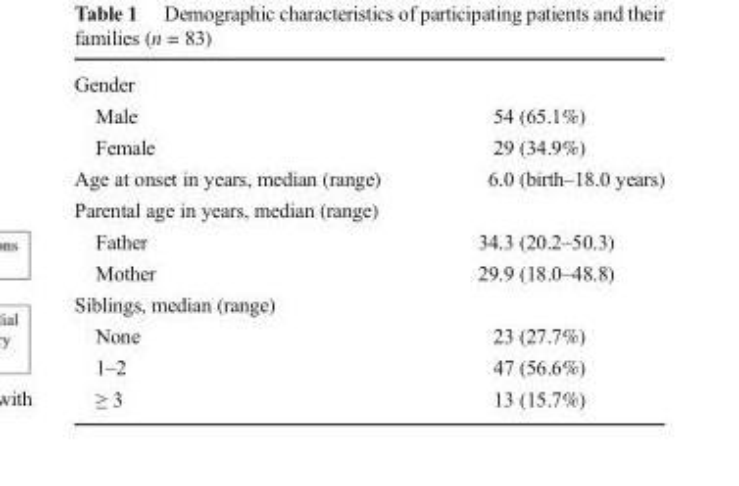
<table><tbody><tr><td colspan="2">Gender</td></tr><tr><td>Male</td><td>54 (65.1%)</td></tr><tr><td>Female</td><td>29 (34.9%)</td></tr><tr><td>Age at onset in years, median (range)</td><td>6.0 (birth–18.0 years)</td></tr><tr><td colspan="2">Parental age in years, median (range)</td></tr><tr><td>Father</td><td>34.3 (20.2–50.3)</td></tr><tr><td>Mother</td><td>29.9 (18.0–48.8)</td></tr><tr><td colspan="2">Siblings, median (range)</td></tr><tr><td>None</td><td>23 (27.7%)</td></tr><tr><td>1–2</td><td>47 (56.6%)</td></tr><tr><td>≥ 3</td><td>13 (15.7%)</td></tr></tbody></table>